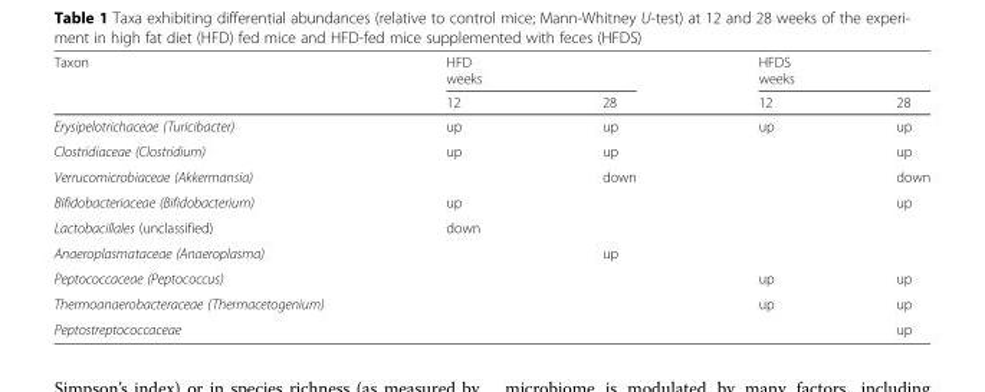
<table><thead><tr><td rowspan="3">Taxon</td><td rowspan="2" colspan="2">HFD weeks</td><td rowspan="2" colspan="2">HFDS weeks</td></tr><tr></tr><tr><td>12</td><td>28</td><td>12</td><td>28</td></tr></thead><tbody><tr><td>Erysipelotrichaceae (Turicibacter)</td><td>up</td><td>up</td><td>up</td><td>up</td></tr><tr><td>Clostridiaceae (Clostridium)</td><td>up</td><td>up</td><td></td><td>up</td></tr><tr><td>Verrucomicrobiaceae (Akkermansia)</td><td></td><td>down</td><td></td><td>down</td></tr><tr><td>Bifidobacteriaceae (Bifidobacterium)</td><td>up</td><td></td><td></td><td>up</td></tr><tr><td>Lactobacillales (unclassified)</td><td>down</td><td></td><td></td><td></td></tr><tr><td>Anaeroplasmataceae (Anaeroplasma)</td><td></td><td>up</td><td></td><td></td></tr><tr><td>Peptococcaceae (Peptococcus)</td><td></td><td></td><td>up</td><td>up</td></tr><tr><td>Thermoanaerobacteraceae (Thermacetogenium)</td><td></td><td></td><td>up</td><td>up</td></tr><tr><td>Peptostreptococcaceae</td><td></td><td></td><td></td><td>up</td></tr></tbody></table>